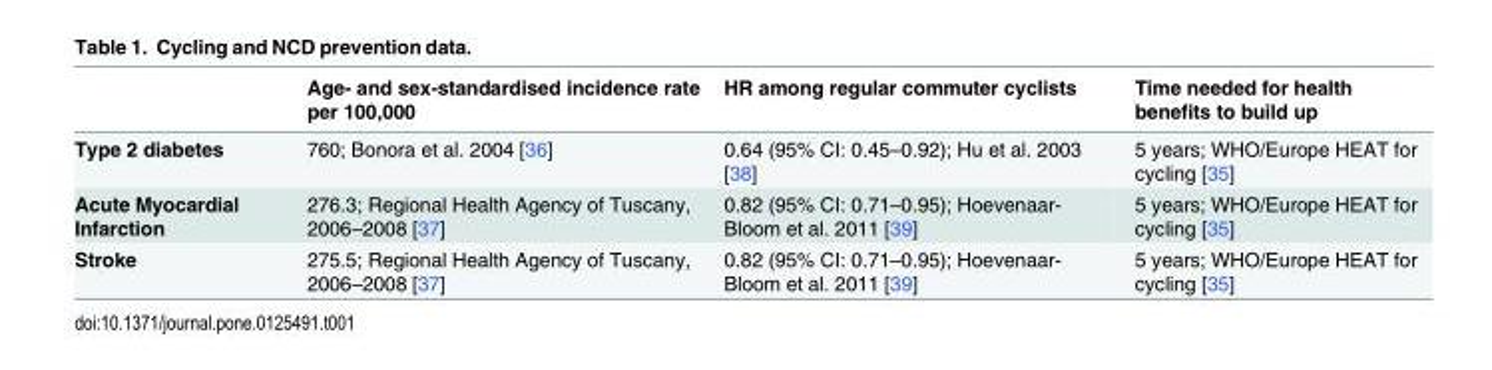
<table><thead><tr><td></td><td>Age- and sex-standardised incidence rate per 100,000</td><td>HR among regular commuter cyclists</td><td>Time needed for health benefits to build up</td></tr></thead><tbody><tr><td>Type 2 diabetes</td><td>760; Bonora et al. 2004 [36]</td><td>0.64 (95% CI: 0.45–0.92); Hu et al. 2003 [38]</td><td>5 years; WHO/Europe HEAT for cycling [35]</td></tr><tr><td>Acute Myocardial Infarction</td><td>276.3; Regional Health Agency of Tuscany, 2006–2008 [37]</td><td>0.82 (95% CI: 0.71–0.95); Hoevenaar- Bloom et al. 2011 [39]</td><td>5 years; WHO/Europe HEAT for cycling [35]</td></tr><tr><td>Stroke</td><td>275.5; Regional Health Agency of Tuscany, 2006–2008 [37]</td><td>0.82 (95% CI: 0.71–0.95); Hoevenaar- Bloom et al. 2011 [39]</td><td>5 years; WHO/Europe HEAT for cycling [35]</td></tr></tbody></table>